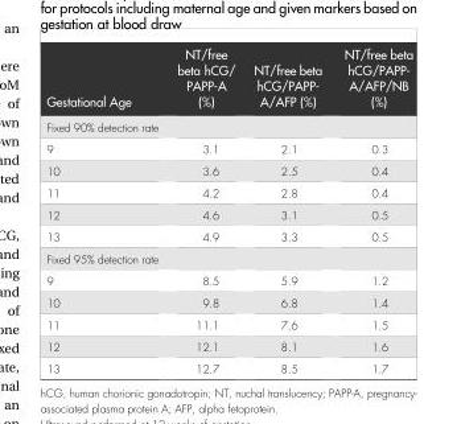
<table><thead><tr><td>Gestational Age</td><td>NT/free beta hCG/ PAPP-A (%)</td><td>NT/free beta hCG/PAPP- A/AFP (%)</td><td>NT/free beta hCG/PAPP- A/AFP/NB (%)</td></tr></thead><tbody><tr><td colspan="4">Fixed 90% detection rate</td></tr><tr><td>9</td><td>3.1</td><td>2.1</td><td>0.3</td></tr><tr><td>10</td><td>3.6</td><td>2.5</td><td>0.4</td></tr><tr><td>11</td><td>4.2</td><td>2.8</td><td>0.4</td></tr><tr><td>12</td><td>4.6</td><td>3.1</td><td>0.5</td></tr><tr><td>13</td><td>4.9</td><td>3.3</td><td>0.5</td></tr><tr><td colspan="4">Fixed 95% detection rate</td></tr><tr><td>9</td><td>8.5</td><td>5.9</td><td>1.2</td></tr><tr><td>10</td><td>9.8</td><td>6.8</td><td>1.4</td></tr><tr><td>11</td><td>11.1</td><td>7.6</td><td>1.5</td></tr><tr><td>12</td><td>12.1</td><td>8.1</td><td>1.6</td></tr><tr><td>13</td><td>12.7</td><td>8.5</td><td>1.7</td></tr></tbody></table>